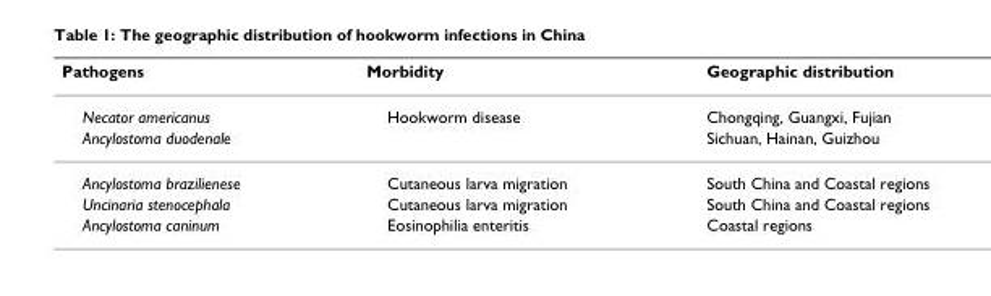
<table><thead><tr><td>Pathogens</td><td>Morbidity</td><td>Geographic distribution</td></tr></thead><tbody><tr><td>Necator americanus</td><td>Hookworm disease</td><td>Chongqing, Guangxi, Fujian</td></tr><tr><td>Ancylostoma duodenale</td><td></td><td>Sichuan, Hainan, Guizhou</td></tr><tr><td>Ancylostoma brazilienese</td><td>Cutaneous larva migration</td><td>South China and Coastal regions</td></tr><tr><td>Uncinaria stenocephala</td><td>Cutaneous larva migration</td><td>South China and Coastal regions</td></tr><tr><td>Ancylostoma caninum</td><td>Eosinophilia enteritis</td><td>Coastal regions</td></tr></tbody></table>